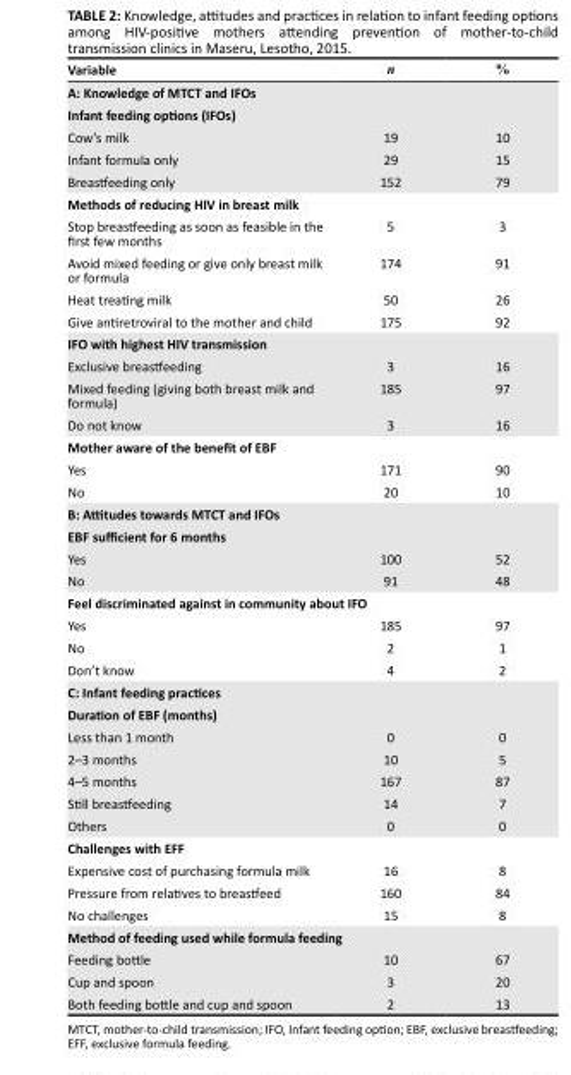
<table><thead><tr><td>Variable</td><td>n</td><td>%</td></tr></thead><tbody><tr><td colspan="3">A: Knowledge of MTCT and IFOs</td></tr><tr><td colspan="3">Infant feeding options (IFOs)</td></tr><tr><td>Cow’s milk</td><td>19</td><td>10</td></tr><tr><td>Infant formula only</td><td>29</td><td>15</td></tr><tr><td>Breastfeeding only</td><td>152</td><td>79</td></tr><tr><td colspan="3">Methods of reducing HIV in breast milk</td></tr><tr><td>Stop breastfeeding as soon as feasible in the first few months</td><td>5</td><td>3</td></tr><tr><td>Avoid mixed feeding or give only breast milk or formula</td><td>174</td><td>91</td></tr><tr><td>Heat treating milk</td><td>50</td><td>26</td></tr><tr><td>Give antiretroviral to the mother and child</td><td>175</td><td>92</td></tr><tr><td colspan="3">IFO with highest HIV transmission</td></tr><tr><td>Exclusive breastfeeding</td><td>3</td><td>16</td></tr><tr><td>Mixed feeding (giving both breast milk and formula)</td><td>185</td><td>97</td></tr><tr><td>Do not know</td><td>3</td><td>16</td></tr><tr><td colspan="3">Mother aware of the benefit of EBF</td></tr><tr><td>Yes</td><td>171</td><td>90</td></tr><tr><td>No</td><td>20</td><td>10</td></tr><tr><td colspan="3">B: Attitudes towards MTCT and IFOs</td></tr><tr><td colspan="3">EBF sufficient for 6 months</td></tr><tr><td>Yes</td><td>100</td><td>52</td></tr><tr><td>No</td><td>91</td><td>48</td></tr><tr><td colspan="3">Feel discriminated against in community about IFO</td></tr><tr><td>Yes</td><td>185</td><td>97</td></tr><tr><td>No</td><td>2</td><td>1</td></tr><tr><td>Don’t know</td><td>4</td><td>2</td></tr><tr><td colspan="3">C: Infant feeding practices</td></tr><tr><td colspan="3">Duration of EBF (months)</td></tr><tr><td>Less than 1 month</td><td>0</td><td>0</td></tr><tr><td>2–3 months</td><td>10</td><td>5</td></tr><tr><td>4–5 months</td><td>167</td><td>87</td></tr><tr><td>Still breastfeeding</td><td>14</td><td>7</td></tr><tr><td>Others</td><td>0</td><td>0</td></tr><tr><td colspan="3">Challenges with EFF</td></tr><tr><td>Expensive cost of purchasing formula milk</td><td>16</td><td>8</td></tr><tr><td>Pressure from relatives to breastfeed</td><td>160</td><td>84</td></tr><tr><td>No challenges</td><td>15</td><td>8</td></tr><tr><td colspan="3">Method of feeding used while formula feeding</td></tr><tr><td>Feeding bottle</td><td>10</td><td>67</td></tr><tr><td>Cup and spoon</td><td>3</td><td>20</td></tr><tr><td>Both feeding bottle and cup and spoon</td><td>2</td><td>13</td></tr></tbody></table>